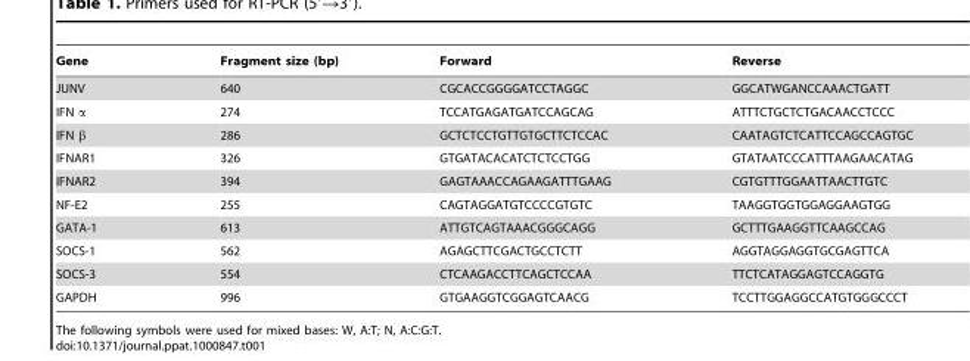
<table><thead><tr><td>Gene</td><td>Fragment size (bp)</td><td>Forward</td><td>Reverse</td></tr></thead><tbody><tr><td>JUNV</td><td>640</td><td>CGCACCGGGGATCCTAGGC</td><td>GGCATWGANCCAAACTGATT</td></tr><tr><td>IFN α</td><td>274</td><td>TCCATGAGATGATCCAGCAG</td><td>ATTTCTGCTCTGACAACCTCCC</td></tr><tr><td>IFN β</td><td>286</td><td>GCTCTCCTGTTGTGCTTCTCCAC</td><td>CAATAGTCTCATTCCAGCCAGTGC</td></tr><tr><td>IFNAR1</td><td>326</td><td>GTGATACACATCTCTCCTGG</td><td>GTATAATCCCATTTAAGAACATAG</td></tr><tr><td>IFNAR2</td><td>394</td><td>GAGTAAACCAGAAGATTTGAAG</td><td>CGTGTTTGGAATTAACTTGTC</td></tr><tr><td>NF-E2</td><td>255</td><td>CAGTAGGATGTCCCCGTGTC</td><td>TAAGGTGGTGGAGGAAGTGG</td></tr><tr><td>GATA-1</td><td>613</td><td>ATTGTCAGTAAACGGGCAGG</td><td>GCTTTGAAGGTTCAAGCCAG</td></tr><tr><td>SOCS-1</td><td>562</td><td>AGAGCTTCGACTGCCTCTT</td><td>AGGTAGGAGGTGCGAGTTCA</td></tr><tr><td>SOCS-3</td><td>554</td><td>CTCAAGACCTTCAGCTCCAA</td><td>TTCTCATAGGAGTCCAGGTG</td></tr><tr><td>GAPDH</td><td>996</td><td>GTGAAGGTCGGAGTCAACG</td><td>TCCTTGGAGGCCATGTGGGCCCT</td></tr></tbody></table>